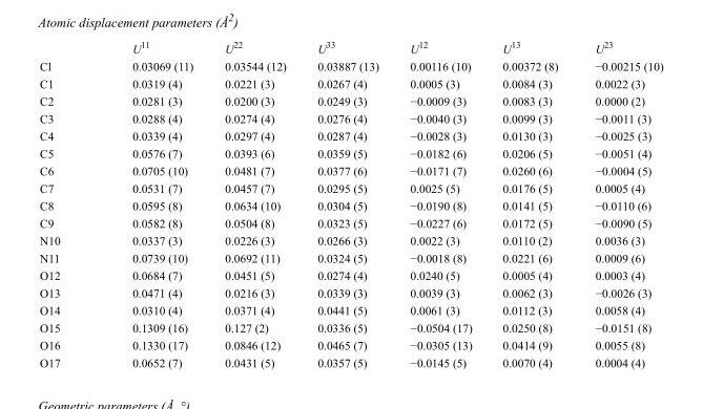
<table><thead><tr><td></td><td>U<sup>11</sup></td><td>U<sup>22</sup></td><td>U<sup>33</sup></td><td>U<sup>12</sup></td><td>U<sup>13</sup></td><td>U<sup>23</sup></td></tr></thead><tbody><tr><td>Cl</td><td>0.03069 (11)</td><td>0.03544 (12)</td><td>0.03887 (13)</td><td>0.00116 (10)</td><td>0.00372 (8)</td><td>−0.00215 (10)</td></tr><tr><td>C1</td><td>0.0319 (4)</td><td>0.0221 (3)</td><td>0.0267 (4)</td><td>0.0005 (3)</td><td>0.0084 (3)</td><td>0.0022 (3)</td></tr><tr><td>C2</td><td>0.0281 (3)</td><td>0.0200 (3)</td><td>0.0249 (3)</td><td>−0.0009 (3)</td><td>0.0083 (3)</td><td>0.0000 (2)</td></tr><tr><td>C3</td><td>0.0288 (4)</td><td>0.0274 (4)</td><td>0.0276 (4)</td><td>−0.0040 (3)</td><td>0.0099 (3)</td><td>−0.0011 (3)</td></tr><tr><td>C4</td><td>0.0339 (4)</td><td>0.0297 (4)</td><td>0.0287 (4)</td><td>−0.0028 (3)</td><td>0.0130 (3)</td><td>−0.0025 (3)</td></tr><tr><td>C5</td><td>0.0576 (7)</td><td>0.0393 (6)</td><td>0.0359 (5)</td><td>−0.0182 (6)</td><td>0.0206 (5)</td><td>−0.0051 (4)</td></tr><tr><td>C6</td><td>0.0705 (10)</td><td>0.0481 (7)</td><td>0.0377 (6)</td><td>−0.0171 (7)</td><td>0.0260 (6)</td><td>−0.0004 (5)</td></tr><tr><td>C7</td><td>0.0531 (7)</td><td>0.0457 (7)</td><td>0.0295 (5)</td><td>0.0025 (5)</td><td>0.0176 (5)</td><td>0.0005 (4)</td></tr><tr><td>C8</td><td>0.0595 (8)</td><td>0.0634 (10)</td><td>0.0304 (5)</td><td>−0.0190 (8)</td><td>0.0141 (5)</td><td>−0.0110 (6)</td></tr><tr><td>C9</td><td>0.0582 (8)</td><td>0.0504 (8)</td><td>0.0323 (5)</td><td>−0.0227 (6)</td><td>0.0172 (5)</td><td>−0.0090 (5)</td></tr><tr><td>N10</td><td>0.0337 (3)</td><td>0.0226 (3)</td><td>0.0266 (3)</td><td>0.0022 (3)</td><td>0.0110 (2)</td><td>0.0036 (3)</td></tr><tr><td>N11</td><td>0.0739 (10)</td><td>0.0692 (11)</td><td>0.0324 (5)</td><td>−0.0018 (8)</td><td>0.0221 (6)</td><td>0.0009 (6)</td></tr><tr><td>O12</td><td>0.0684 (7)</td><td>0.0451 (5)</td><td>0.0274 (4)</td><td>0.0240 (5)</td><td>0.0005 (4)</td><td>0.0003 (4)</td></tr><tr><td>O13</td><td>0.0471 (4)</td><td>0.0216 (3)</td><td>0.0339 (3)</td><td>0.0039 (3)</td><td>0.0062 (3)</td><td>−0.0026 (3)</td></tr><tr><td>O14</td><td>0.0310 (4)</td><td>0.0371 (4)</td><td>0.0441 (5)</td><td>0.0061 (3)</td><td>0.0112 (3)</td><td>0.0058 (4)</td></tr><tr><td>O15</td><td>0.1309 (16)</td><td>0.127 (2)</td><td>0.0336 (5)</td><td>−0.0504 (17)</td><td>0.0250 (8)</td><td>−0.0151 (8)</td></tr><tr><td>O16</td><td>0.1330 (17)</td><td>0.0846 (12)</td><td>0.0465 (7)</td><td>−0.0305 (13)</td><td>0.0414 (9)</td><td>0.0055 (8)</td></tr><tr><td>O17</td><td>0.0652 (7)</td><td>0.0431 (5)</td><td>0.0357 (5)</td><td>−0.0145 (5)</td><td>0.0070 (4)</td><td>0.0004 (4)</td></tr></tbody></table>